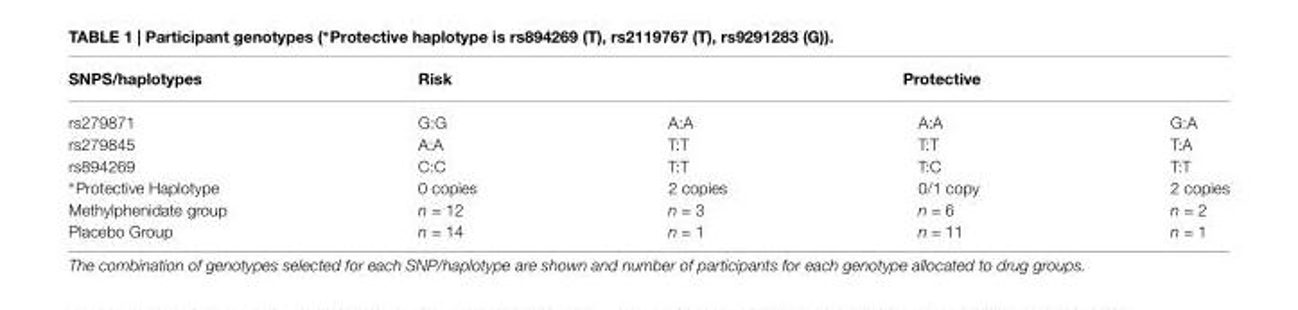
<table><thead><tr><td rowspan="2">SNPS/haplotypes rs279871</td><td rowspan="2">Risk G:G</td><td colspan="3">Protective</td></tr><tr><td>A:A</td><td>A:A</td><td>G:A</td></tr></thead><tbody><tr><td>rs279845</td><td>A:A</td><td>T:T</td><td>T:T</td><td>T:A</td></tr><tr><td>rs894269</td><td>C:C</td><td>T:T</td><td>T:C</td><td>T:T</td></tr><tr><td>∗Protective Haplotype</td><td>0 copies</td><td>2 copies</td><td>0/1 copy</td><td>2 copies</td></tr><tr><td>Methylphenidate group</td><td>n = 12</td><td>n = 3</td><td>n = 6</td><td>n = 2</td></tr><tr><td>Placebo Group</td><td>n = 14</td><td>n = 1</td><td>n = 11</td><td>n = 1</td></tr></tbody></table>